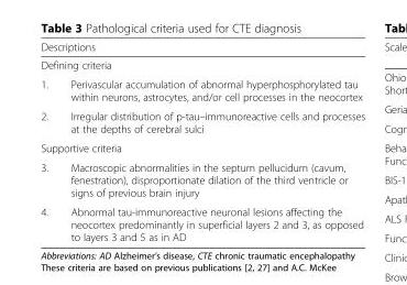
<table><thead><tr><td rowspan="2" colspan="2">Descriptions Defining criteria</td></tr><tr></tr><tr><td>1.</td><td>Perivascular accumulation of abnormal hyperphosphorylated tau within neurons, astrocytes, and/or cell processes in the neocortex</td></tr></thead><tbody><tr><td>2.</td><td>Irregular distribution of p-tau–immunoreactive cells and processes at the depths of cerebral sulci</td></tr><tr><td colspan="2">Supportive criteria</td></tr><tr><td>3.</td><td>Macroscopic abnormalities in the septum pellucidum (cavum, fenestration), disproportionate dilation of the third ventricle or signs of previous brain injury</td></tr><tr><td>4.</td><td>Abnormal tau-immunoreactive neuronal lesions affecting the neocortex predominantly in superficial layers 2 and 3, as opposed to layers 3 and 5 as in AD</td></tr></tbody></table>